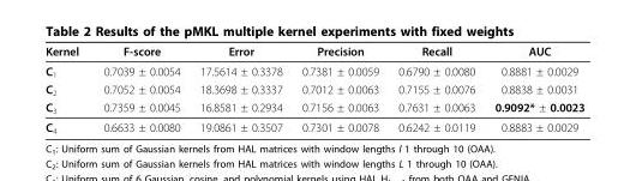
<table><thead><tr><td>Kernel</td><td>F-score</td><td>Error</td><td>Precision</td><td>Recall</td><td>AUC</td></tr></thead><tbody><tr><td>C<sub>1</sub></td><td>0.7039 ± 0.0054</td><td>17.5614 ± 0.3378</td><td>0.7381 ± 0.0059</td><td>0.6790 ± 0.0080</td><td>0.8881 ± 0.0029</td></tr><tr><td>C<sub>2</sub></td><td>0.7052 ± 0.0054</td><td>18.3698 ± 0.3337</td><td>0.7012 ± 0.0063</td><td>0.7155 ± 0.0076</td><td>0.8838 ± 0.0031</td></tr><tr><td>C<sub>3</sub></td><td>0.7359 ± 0.0045</td><td>16.8581 ± 0.2934</td><td>0.7156 ± 0.0063</td><td>0.7631 ± 0.0063</td><td>0.9092* ± 0.0023</td></tr><tr><td>C<sub>4</sub></td><td>0.6633 ± 0.0080</td><td>19.0861 ± 0.3507</td><td>0.7301 ± 0.0078</td><td>0.6242 ± 0.0119</td><td>0.8883 ± 0.0029</td></tr></tbody></table>